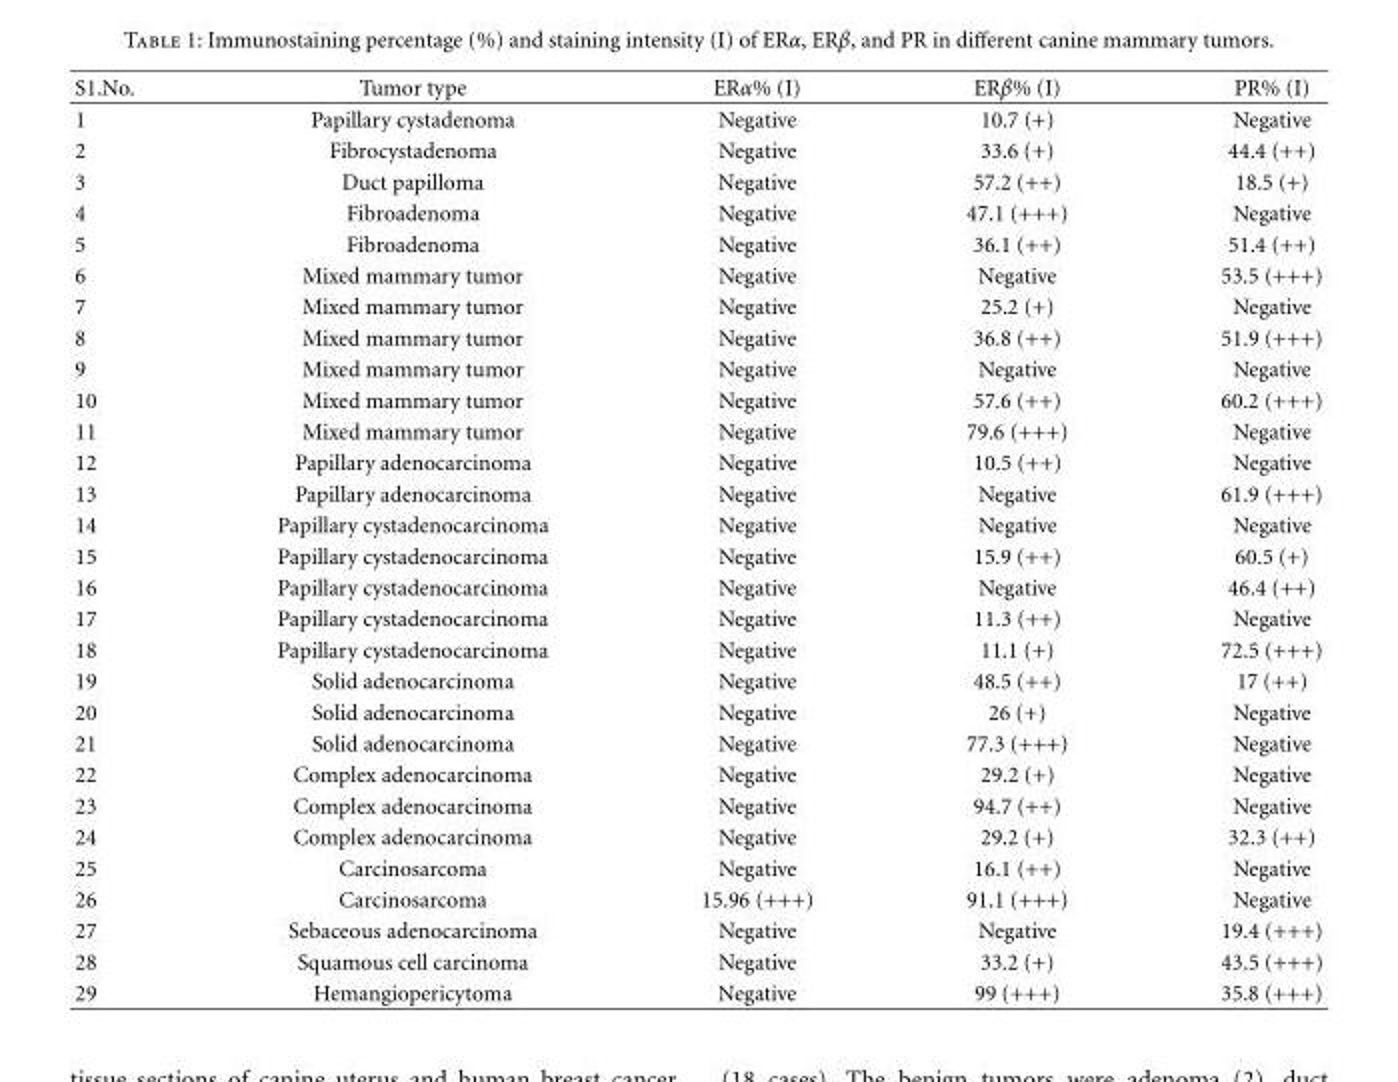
<table><thead><tr><td>S1.No.</td><td>Tumor type</td><td>ERα% (I)</td><td>ERβ% (I)</td><td>PR% (I)</td></tr></thead><tbody><tr><td>1</td><td>Papillary cystadenoma</td><td>Negative</td><td>10.7 (+)</td><td>Negative</td></tr><tr><td>2</td><td>Fibrocystadenoma</td><td>Negative</td><td>33.6 (+)</td><td>44.4 (++)</td></tr><tr><td>3</td><td>Duct papilloma</td><td>Negative</td><td>57.2 (++)</td><td>18.5 (+)</td></tr><tr><td>4</td><td>Fibroadenoma</td><td>Negative</td><td>47.1 (+++)</td><td>Negative</td></tr><tr><td>5</td><td>Fibroadenoma</td><td>Negative</td><td>36.1 (++)</td><td>51.4 (++)</td></tr><tr><td>6</td><td>Mixed mammary tumor</td><td>Negative</td><td>Negative</td><td>53.5 (+++)</td></tr><tr><td>7</td><td>Mixed mammary tumor</td><td>Negative</td><td>25.2 (+)</td><td>Negative</td></tr><tr><td>8</td><td>Mixed mammary tumor</td><td>Negative</td><td>36.8 (++)</td><td>51.9 (+++)</td></tr><tr><td>9</td><td>Mixed mammary tumor</td><td>Negative</td><td>Negative</td><td>Negative</td></tr><tr><td>10</td><td>Mixed mammary tumor</td><td>Negative</td><td>57.6 (++)</td><td>60.2 (+++)</td></tr><tr><td>11</td><td>Mixed mammary tumor</td><td>Negative</td><td>79.6 (+++)</td><td>Negative</td></tr><tr><td>12</td><td>Papillary adenocarcinoma</td><td>Negative</td><td>10.5 (++)</td><td>Negative</td></tr><tr><td>13</td><td>Papillary adenocarcinoma</td><td>Negative</td><td>Negative</td><td>61.9 (+++)</td></tr><tr><td>14</td><td>Papillary cystadenocarcinoma</td><td>Negative</td><td>Negative</td><td>Negative</td></tr><tr><td>15</td><td>Papillary cystadenocarcinoma</td><td>Negative</td><td>15.9 (++)</td><td>60.5 (+)</td></tr><tr><td>16</td><td>Papillary cystadenocarcinoma</td><td>Negative</td><td>Negative</td><td>46.4 (++)</td></tr><tr><td>17</td><td>Papillary cystadenocarcinoma</td><td>Negative</td><td>11.3 (++)</td><td>Negative</td></tr><tr><td>18</td><td>Papillary cystadenocarcinoma</td><td>Negative</td><td>11.1 (+)</td><td>72.5 (+++)</td></tr><tr><td>19</td><td>Solid adenocarcinoma</td><td>Negative</td><td>48.5 (++)</td><td>17 (++)</td></tr><tr><td>20</td><td>Solid adenocarcinoma</td><td>Negative</td><td>26 (+)</td><td>Negative</td></tr><tr><td>21</td><td>Solid adenocarcinoma</td><td>Negative</td><td>77.3 (+++)</td><td>Negative</td></tr><tr><td>22</td><td>Complex adenocarcinoma</td><td>Negative</td><td>29.2 (+)</td><td>Negative</td></tr><tr><td>23</td><td>Complex adenocarcinoma</td><td>Negative</td><td>94.7 (++)</td><td>Negative</td></tr><tr><td>24</td><td>Complex adenocarcinoma</td><td>Negative</td><td>29.2 (+)</td><td>32.3 (++)</td></tr><tr><td>25</td><td>Carcinosarcoma</td><td>Negative</td><td>16.1 (++)</td><td>Negative</td></tr><tr><td>26</td><td>Carcinosarcoma</td><td>15.96 (+++)</td><td>91.1 (+++)</td><td>Negative</td></tr><tr><td>27</td><td>Sebaceous adenocarcinoma</td><td>Negative</td><td>Negative</td><td>19.4 (+++)</td></tr><tr><td>28</td><td>Squamous cell carcinoma</td><td>Negative</td><td>33.2 (+)</td><td>43.5 (+++)</td></tr><tr><td>29</td><td>Hemangiopericytoma</td><td>Negative</td><td>99 (+++)</td><td>35.8 (+++)</td></tr></tbody></table>